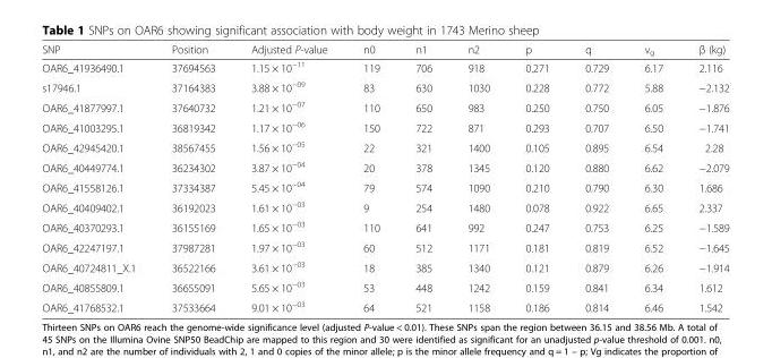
<table><thead><tr><td>SNP</td><td>Position</td><td>Adjusted P-value</td><td>n0</td><td>n1</td><td>n2</td><td>p</td><td>q</td><td>v<sub>g</sub></td><td>β (kg)</td></tr></thead><tbody><tr><td>OAR6_41936490.1</td><td>37694563</td><td>1.15 × 10<sup>−11</sup></td><td>119</td><td>706</td><td>918</td><td>0.271</td><td>0.729</td><td>6.17</td><td>2.116</td></tr><tr><td>s17946.1</td><td>37164383</td><td>3.88 × 10<sup>−09</sup></td><td>83</td><td>630</td><td>1030</td><td>0.228</td><td>0.772</td><td>5.88</td><td>−2.132</td></tr><tr><td>OAR6_41877997.1</td><td>37640732</td><td>1.21 × 10<sup>−07</sup></td><td>110</td><td>650</td><td>983</td><td>0.250</td><td>0.750</td><td>6.05</td><td>−1.876</td></tr><tr><td>OAR6_41003295.1</td><td>36819342</td><td>1.17 × 10<sup>−06</sup></td><td>150</td><td>722</td><td>871</td><td>0.293</td><td>0.707</td><td>6.50</td><td>−1.741</td></tr><tr><td>OAR6_42945420.1</td><td>38567455</td><td>1.56 × 10<sup>−05</sup></td><td>22</td><td>321</td><td>1400</td><td>0.105</td><td>0.895</td><td>6.54</td><td>2.28</td></tr><tr><td>OAR6_40449774.1</td><td>36234302</td><td>3.87 × 10<sup>−04</sup></td><td>20</td><td>378</td><td>1345</td><td>0.120</td><td>0.880</td><td>6.62</td><td>−2.079</td></tr><tr><td>OAR6_41558126.1</td><td>37334387</td><td>5.45 × 10<sup>−04</sup></td><td>79</td><td>574</td><td>1090</td><td>0.210</td><td>0.790</td><td>6.30</td><td>1.686</td></tr><tr><td>OAR6_40409402.1</td><td>36192023</td><td>1.61 × 10<sup>−03</sup></td><td>9</td><td>254</td><td>1480</td><td>0.078</td><td>0.922</td><td>6.65</td><td>2.337</td></tr><tr><td>OAR6_40370293.1</td><td>36155169</td><td>1.65 × 10<sup>−03</sup></td><td>110</td><td>641</td><td>992</td><td>0.247</td><td>0.753</td><td>6.25</td><td>−1.589</td></tr><tr><td>OAR6_42247197.1</td><td>37987281</td><td>1.97 × 10<sup>−03</sup></td><td>60</td><td>512</td><td>1171</td><td>0.181</td><td>0.819</td><td>6.52</td><td>−1.645</td></tr><tr><td>OAR6_40724811_X.1</td><td>36522166</td><td>3.61 × 10<sup>−03</sup></td><td>18</td><td>385</td><td>1340</td><td>0.121</td><td>0.879</td><td>6.26</td><td>−1.914</td></tr><tr><td>OAR6_40855809.1</td><td>36655091</td><td>5.65 × 10<sup>−03</sup></td><td>53</td><td>448</td><td>1242</td><td>0.159</td><td>0.841</td><td>6.34</td><td>1.612</td></tr><tr><td>OAR6_41768532.1</td><td>37533664</td><td>9.01 × 10<sup>−03</sup></td><td>64</td><td>521</td><td>1158</td><td>0.186</td><td>0.814</td><td>6.46</td><td>1.542</td></tr></tbody></table>